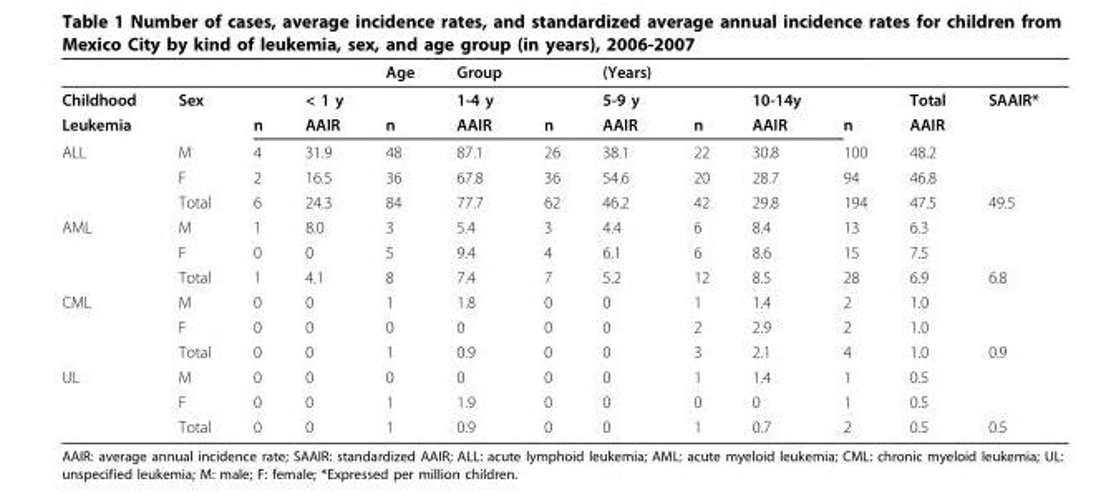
<table><thead><tr><td></td><td></td><td></td><td></td><td>Age</td><td>Group</td><td></td><td>(Years)</td><td></td><td></td><td></td><td></td><td></td></tr></thead><tbody><tr><td>Childhood</td><td>Sex</td><td></td><td>&lt; 1 y</td><td></td><td>1-4 y</td><td></td><td>5-9 y</td><td></td><td>10-14y</td><td></td><td>Total</td><td>SAAIR*</td></tr><tr><td>Leukemia</td><td></td><td>n</td><td>AAIR</td><td>n</td><td>AAIR</td><td>n</td><td>AAIR</td><td>n</td><td>AAIR</td><td>n</td><td>AAIR</td><td></td></tr><tr><td rowspan="3">ALL</td><td>M</td><td>4</td><td>31.9</td><td>48</td><td>87.1</td><td>26</td><td>38.1</td><td>22</td><td>30.8</td><td>100</td><td>48.2</td><td></td></tr><tr><td>F</td><td>2</td><td>16.5</td><td>36</td><td>67.8</td><td>36</td><td>54.6</td><td>20</td><td>28.7</td><td>94</td><td>46.8</td><td></td></tr><tr><td>Total</td><td>6</td><td>24.3</td><td>84</td><td>77.7</td><td>62</td><td>46.2</td><td>42</td><td>29.8</td><td>194</td><td>47.5</td><td>49.5</td></tr><tr><td rowspan="3">AML</td><td>M</td><td>1</td><td>8.0</td><td>3</td><td>5.4</td><td>3</td><td>4.4</td><td>6</td><td>8.4</td><td>13</td><td>6.3</td><td></td></tr><tr><td>F</td><td>0</td><td>0</td><td>5</td><td>9.4</td><td>4</td><td>6.1</td><td>6</td><td>8.6</td><td>15</td><td>7.5</td><td></td></tr><tr><td>Total</td><td>1</td><td>4.1</td><td>8</td><td>7.4</td><td>7</td><td>5.2</td><td>12</td><td>8.5</td><td>28</td><td>6.9</td><td>6.8</td></tr><tr><td rowspan="3">CML</td><td>M</td><td>0</td><td>0</td><td>1</td><td>1.8</td><td>0</td><td>0</td><td>1</td><td>1.4</td><td>2</td><td>1.0</td><td></td></tr><tr><td>F</td><td>0</td><td>0</td><td>0</td><td>0</td><td>0</td><td>0</td><td>2</td><td>2.9</td><td>2</td><td>1.0</td><td></td></tr><tr><td>Total</td><td>0</td><td>0</td><td>1</td><td>0.9</td><td>0</td><td>0</td><td>3</td><td>2.1</td><td>4</td><td>1.0</td><td>0.9</td></tr><tr><td rowspan="3">UL</td><td>M</td><td>0</td><td>0</td><td>0</td><td>0</td><td>0</td><td>0</td><td>1</td><td>1.4</td><td>1</td><td>0.5</td><td></td></tr><tr><td>F</td><td>0</td><td>0</td><td>1</td><td>1.9</td><td>0</td><td>0</td><td>0</td><td>0</td><td>1</td><td>0.5</td><td></td></tr><tr><td>Total</td><td>0</td><td>0</td><td>1</td><td>0.9</td><td>0</td><td>0</td><td>1</td><td>0.7</td><td>2</td><td>0.5</td><td>0.5</td></tr></tbody></table>